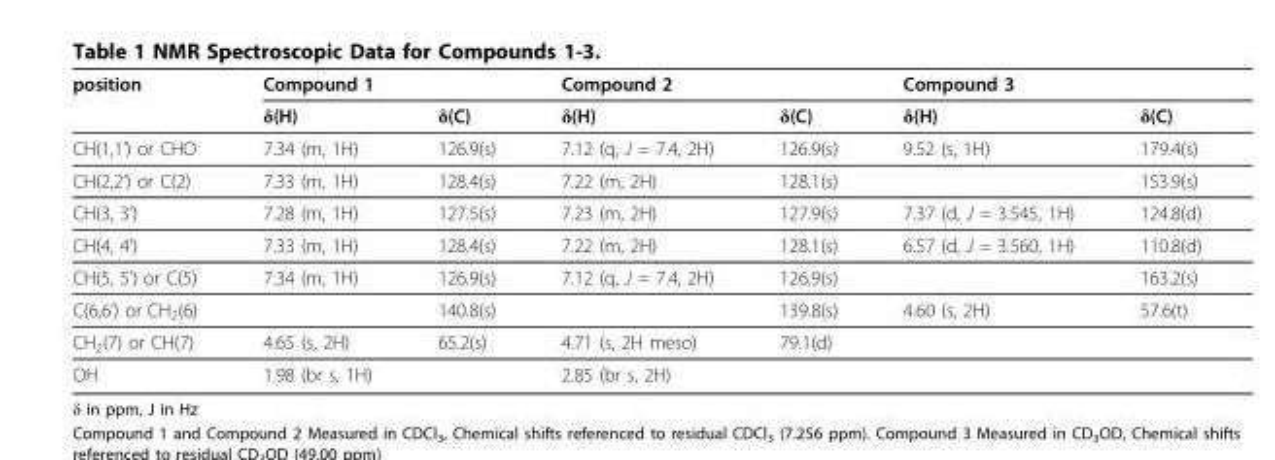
<table><thead><tr><td rowspan="2">position</td><td colspan="2">Compound 1</td><td colspan="2">Compound 2</td><td colspan="2">Compound 3</td></tr><tr><td>δ(H)</td><td>δ(C)</td><td>δ(H)</td><td>δ(C)</td><td>δ(H)</td><td>δ(C)</td></tr></thead><tbody><tr><td>CH(1,1’) or CHO</td><td>7.34 (m, 1H)</td><td>126.9(s)</td><td>7.12 (q, J = 7.4, 2H)</td><td>126.9(s)</td><td>9.52 (s, 1H)</td><td>179.4(s)</td></tr><tr><td>CH(2,2’) or C(2)</td><td>7.33 (m, 1H)</td><td>128.4(s)</td><td>7.22 (m, 2H)</td><td>128.1(s)</td><td></td><td>153.9(s)</td></tr><tr><td>CH(3, 3’)</td><td>7.28 (m, 1H)</td><td>127.5(s)</td><td>7.23 (m, 2H)</td><td>127.9(s)</td><td>7.37 (d, J = 3.545, 1H)</td><td>124.8(d)</td></tr><tr><td>CH(4, 4’)</td><td>7.33 (m, 1H)</td><td>128.4(s)</td><td>7.22 (m, 2H)</td><td>128.1(s)</td><td>6.57 (d, J = 3.560, 1H)</td><td>110.8(d)</td></tr><tr><td>CH(5, 5’) or C(5)</td><td>7.34 (m, 1H)</td><td>126.9(s)</td><td>7.12 (q, J = 7.4, 2H)</td><td>126.9(s)</td><td></td><td>163.2(s)</td></tr><tr><td>C(6,6’) or CH<sub>2</sub>(6)</td><td></td><td>140.8(s)</td><td></td><td>139.8(s)</td><td>4.60 (s, 2H)</td><td>57.6(t)</td></tr><tr><td>CH<sub>2</sub>(7) or CH(7)</td><td>4.65 (s, 2H)</td><td>65.2(s)</td><td>4.71 (s, 2H meso)</td><td>79.1(d)</td><td></td><td></td></tr><tr><td>OH</td><td>1.98 (br s, 1H)</td><td></td><td>2.85 (br s, 2H)</td><td></td><td></td><td></td></tr></tbody></table>